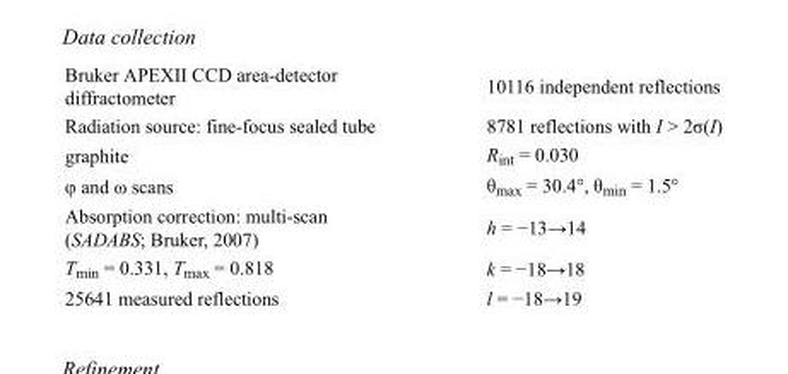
<table><tbody><tr><td>Bruker APEXII CCD area-detector diffractometer</td><td>10116 independent reflections</td></tr><tr><td>Radiation source: fine-focus sealed tube</td><td>8781 reflections with I &gt; 2σ(I)</td></tr><tr><td>graphite</td><td>R<sub>int</sub> = 0.030</td></tr><tr><td>φ and ω scans</td><td>θ<sub>max</sub> = 30.4°, θ<sub>min</sub> = 1.5°</td></tr><tr><td>Absorption correction: multi-scan (SADABS; Bruker, 2007)</td><td>h = −13→14</td></tr><tr><td>T<sub>min</sub> = 0.331, T<sub>max</sub> = 0.818</td><td>k = −18→18</td></tr><tr><td>25641 measured reflections</td><td>l = −18→19</td></tr></tbody></table>